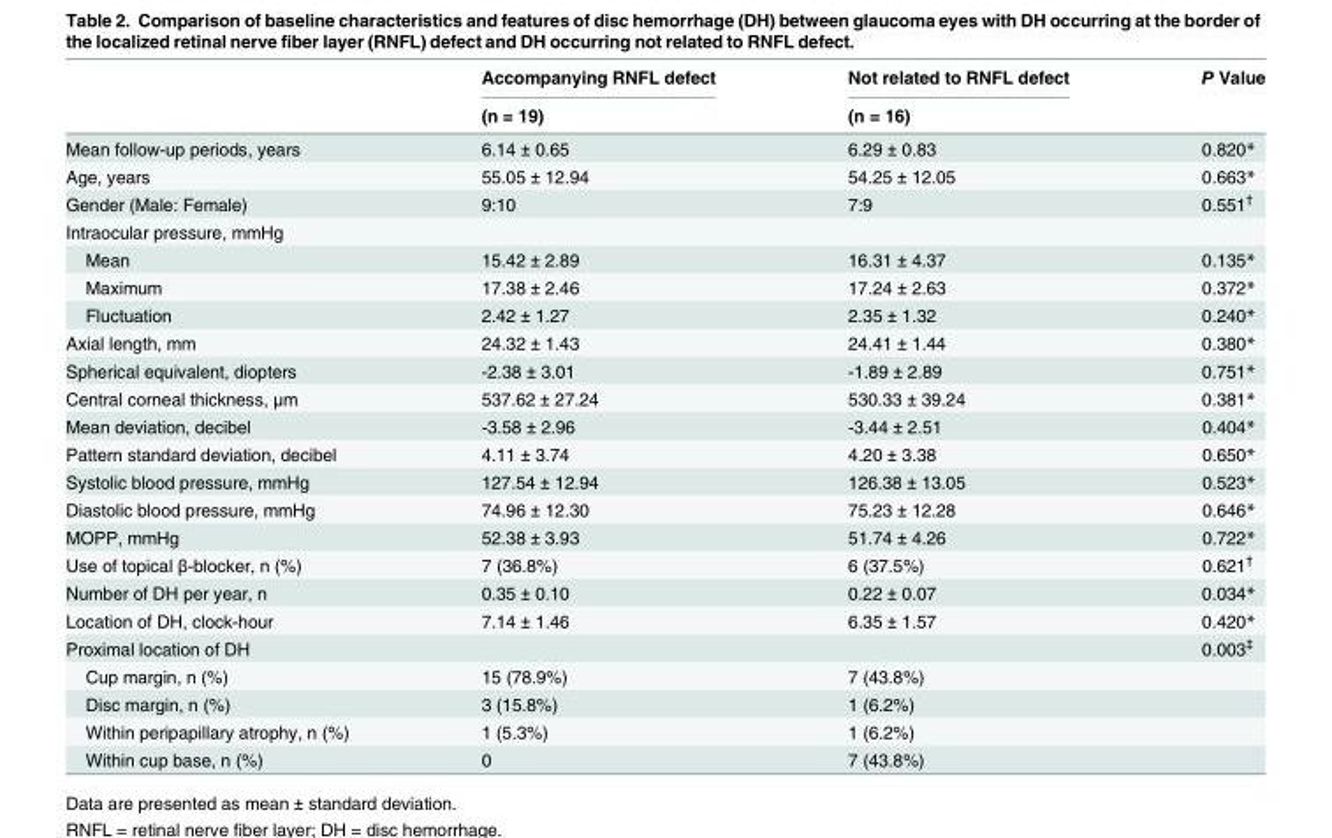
<table><thead><tr><td rowspan="2"></td><td rowspan="2">Accompanying RNFL defect (n = 19)</td><td rowspan="2">Not related to RNFL defect (n = 16)</td><td rowspan="2">P Value</td></tr><tr></tr></thead><tbody><tr><td>Mean follow-up periods, years</td><td>6.14 ± 0.65</td><td>6.29 ± 0.83</td><td>0.820*</td></tr><tr><td>Age, years</td><td>55.05 ± 12.94</td><td>54.25 ± 12.05</td><td>0.663*</td></tr><tr><td>Gender (Male: Female)</td><td>9:10</td><td>7:9</td><td>0.551<sup>†</sup></td></tr><tr><td colspan="4">Intraocular pressure, mmHg</td></tr><tr><td>Mean</td><td>15.42 ± 2.89</td><td>16.31 ± 4.37</td><td>0.135*</td></tr><tr><td>Maximum</td><td>17.38 ± 2.46</td><td>17.24 ± 2.63</td><td>0.372*</td></tr><tr><td>Fluctuation</td><td>2.42 ± 1.27</td><td>2.35 ± 1.32</td><td>0.240*</td></tr><tr><td>Axial length, mm</td><td>24.32 ± 1.43</td><td>24.41 ± 1.44</td><td>0.380*</td></tr><tr><td>Spherical equivalent, diopters</td><td>-2.38 ± 3.01</td><td>-1.89 ± 2.89</td><td>0.751*</td></tr><tr><td>Central corneal thickness, μm</td><td>537.62 ± 27.24</td><td>530.33 ± 39.24</td><td>0.381*</td></tr><tr><td>Mean deviation, decibel</td><td>-3.58 ± 2.96</td><td>-3.44 ± 2.51</td><td>0.404*</td></tr><tr><td>Pattern standard deviation, decibel</td><td>4.11 ± 3.74</td><td>4.20 ± 3.38</td><td>0.650*</td></tr><tr><td>Systolic blood pressure, mmHg</td><td>127.54 ± 12.94</td><td>126.38 ± 13.05</td><td>0.523*</td></tr><tr><td>Diastolic blood pressure, mmHg</td><td>74.96 ± 12.30</td><td>75.23 ± 12.28</td><td>0.646*</td></tr><tr><td>MOPP, mmHg</td><td>52.38 ± 3.93</td><td>51.74 ± 4.26</td><td>0.722*</td></tr><tr><td>Use of topical β-blocker, n (%)</td><td>7 (36.8%)</td><td>6 (37.5%)</td><td>0.621<sup>†</sup></td></tr><tr><td>Number of DH per year, n</td><td>0.35 ± 0.10</td><td>0.22 ± 0.07</td><td>0.034*</td></tr><tr><td>Location of DH, clock-hour</td><td>7.14 ± 1.46</td><td>6.35 ± 1.57</td><td>0.420*</td></tr><tr><td>Proximal location of DH</td><td></td><td></td><td>0.003<sup>‡</sup></td></tr><tr><td>Cup margin, n (%)</td><td>15 (78.9%)</td><td>7 (43.8%)</td><td></td></tr><tr><td>Disc margin, n (%)</td><td>3 (15.8%)</td><td>1 (6.2%)</td><td></td></tr><tr><td>Within peripapillary atrophy, n (%)</td><td>1 (5.3%)</td><td>1 (6.2%)</td><td></td></tr><tr><td>Within cup base, n (%)</td><td>0</td><td>7 (43.8%)</td><td></td></tr></tbody></table>